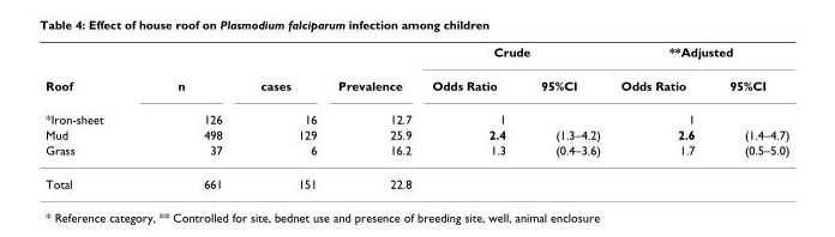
<table><thead><tr><td rowspan="5">Roof *Iron-sheet Mud Grass</td><td rowspan="5">n 126 498 37</td><td rowspan="5">cases 16 129 6</td><td rowspan="5">Prevalence 12.7 25.9 16.2</td><td colspan="2">Crude</td><td colspan="2">**Adjusted</td></tr><tr><td rowspan="4">Odds Ratio 1 2.4 1.3</td><td rowspan="4">95%CI (1.3–4.2) (0.4–3.6)</td><td rowspan="4">Odds Ratio 1 2.6 1.7</td><td rowspan="4">95%CI (1.4–4.7) (0.5–5.0)</td></tr><tr></tr><tr></tr><tr></tr></thead><tbody><tr><td>Total</td><td>661</td><td>151</td><td>22.8</td><td></td><td></td><td></td><td></td></tr></tbody></table>